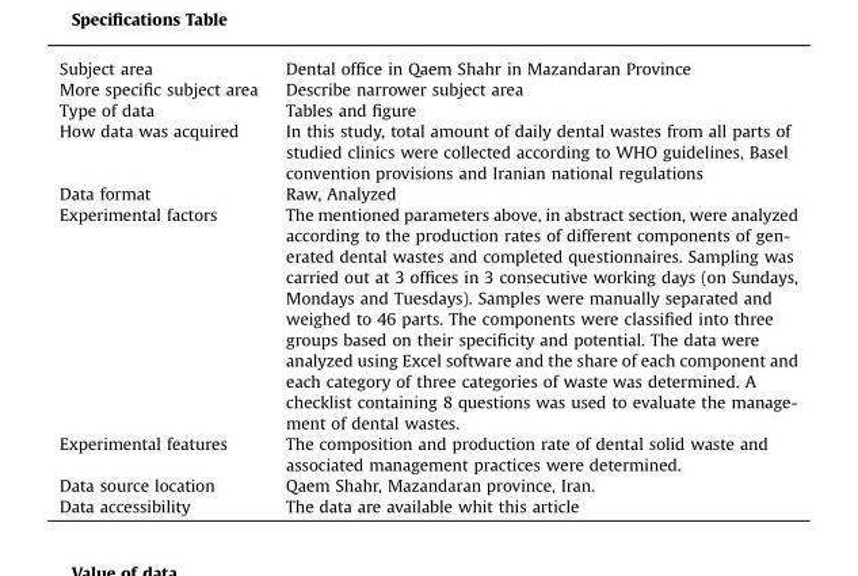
<table><tbody><tr><td>Subject area</td><td>Dental office in Qaem Shahr in Mazandaran Province</td></tr><tr><td>More specific subject area</td><td>Describe narrower subject area</td></tr><tr><td>Type of data</td><td>Tables and figure</td></tr><tr><td>How data was acquired</td><td>In this study, total amount of daily dental wastes from all parts of studied clinics were collected according to WHO guidelines, Basel convention provisions and Iranian national regulations</td></tr><tr><td>Data format</td><td>Raw, Analyzed</td></tr><tr><td>Experimental factors</td><td>The mentioned parameters above, in abstract section, were analyzed according to the production rates of different components of gen- erated dental wastes and completed questionnaires. Sampling was carried out at 3 offices in 3 consecutive working days (on Sundays, Mondays and Tuesdays). Samples were manually separated and weighed to 46 parts. The components were classified into three groups based on their specificity and potential. The data were analyzed using Excel software and the share of each component and each category of three categories of waste was determined. A checklist containing 8 questions was used to evaluate the manage- ment of dental wastes.</td></tr><tr><td>Experimental features</td><td>The composition and production rate of dental solid waste and associated management practices were determined.</td></tr><tr><td>Data source location</td><td>Qaem Shahr, Mazandaran province, Iran.</td></tr><tr><td>Data accessibility</td><td>The data are available whit this article</td></tr></tbody></table>